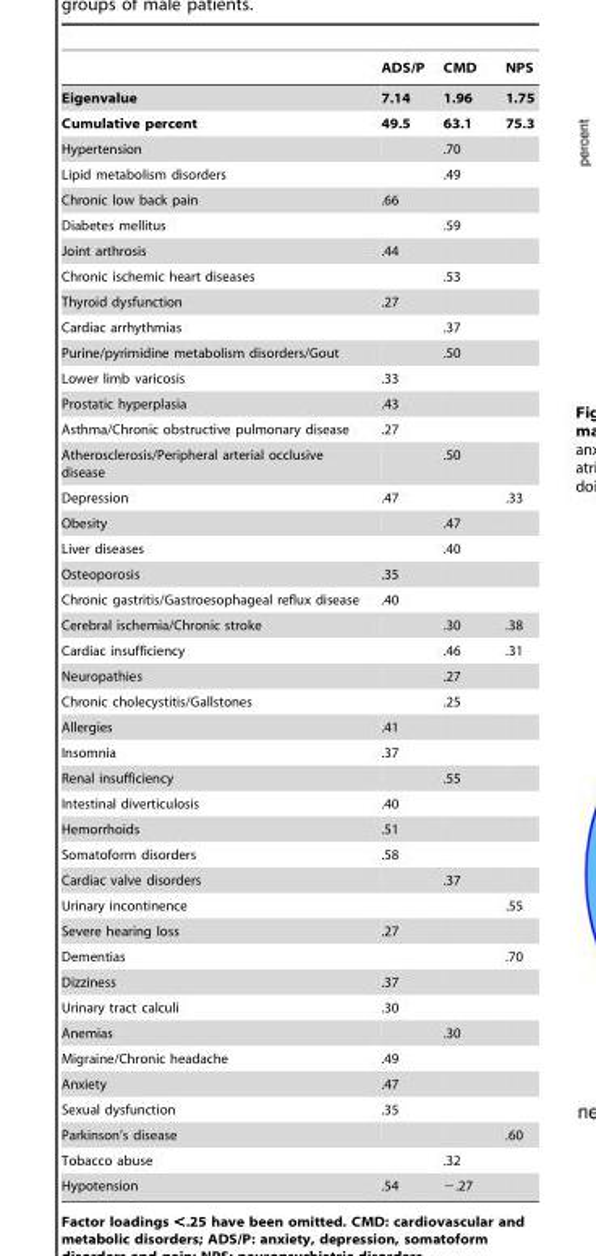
<table><thead><tr><td></td><td>ADS/P</td><td>CMD</td><td>NPS</td></tr></thead><tbody><tr><td>Eigenvalue</td><td>7.14</td><td>1.96</td><td>1.75</td></tr><tr><td>Cumulative percent</td><td>49.5</td><td>63.1</td><td>75.3</td></tr><tr><td>Hypertension</td><td></td><td>.70</td><td></td></tr><tr><td>Lipid metabolism disorders</td><td></td><td>.49</td><td></td></tr><tr><td>Chronic low back pain</td><td>.66</td><td></td><td></td></tr><tr><td>Diabetes mellitus</td><td></td><td>.59</td><td></td></tr><tr><td>Joint arthrosis</td><td>.44</td><td></td><td></td></tr><tr><td>Chronic ischemic heart diseases</td><td></td><td>.53</td><td></td></tr><tr><td>Thyroid dysfunction</td><td>.27</td><td></td><td></td></tr><tr><td>Cardiac arrhythmias</td><td></td><td>.37</td><td></td></tr><tr><td>Purine/pyrimidine metabolism disorders/Gout</td><td></td><td>.50</td><td></td></tr><tr><td>Lower limb varicosis</td><td>.33</td><td></td><td></td></tr><tr><td>Prostatic hyperplasia</td><td>.43</td><td></td><td></td></tr><tr><td>Asthma/Chronic obstructive pulmonary disease</td><td>.27</td><td></td><td></td></tr><tr><td>Atherosclerosis/Peripheral arterial occlusive disease</td><td></td><td>.50</td><td></td></tr><tr><td>Depression</td><td>.47</td><td></td><td>.33</td></tr><tr><td>Obesity</td><td></td><td>.47</td><td></td></tr><tr><td>Liver diseases</td><td></td><td>.40</td><td></td></tr><tr><td>Osteoporosis</td><td>.35</td><td></td><td></td></tr><tr><td>Chronic gastritis/Gastroesophageal reflux disease</td><td>.40</td><td></td><td></td></tr><tr><td>Cerebral ischemia/Chronic stroke</td><td></td><td>.30</td><td>.38</td></tr><tr><td>Cardiac insufficiency</td><td></td><td>.46</td><td>.31</td></tr><tr><td>Neuropathies</td><td></td><td>.27</td><td></td></tr><tr><td>Chronic cholecystitis/Gallstones</td><td></td><td>.25</td><td></td></tr><tr><td>Allergies</td><td>.41</td><td></td><td></td></tr><tr><td>Insomnia</td><td>.37</td><td></td><td></td></tr><tr><td>Renal insufficiency</td><td></td><td>.55</td><td></td></tr><tr><td>Intestinal diverticulosis</td><td>.40</td><td></td><td></td></tr><tr><td>Hemorrhoids</td><td>.51</td><td></td><td></td></tr><tr><td>Somatoform disorders</td><td>.58</td><td></td><td></td></tr><tr><td>Cardiac valve disorders</td><td></td><td>.37</td><td></td></tr><tr><td>Urinary incontinence</td><td></td><td></td><td>.55</td></tr><tr><td>Severe hearing loss</td><td>.27</td><td></td><td></td></tr><tr><td>Dementias</td><td></td><td></td><td>.70</td></tr><tr><td>Dizziness</td><td>.37</td><td></td><td></td></tr><tr><td>Urinary tract calculi</td><td>.30</td><td></td><td></td></tr><tr><td>Anemias</td><td></td><td>.30</td><td></td></tr><tr><td>Migraine/Chronic headache</td><td>.49</td><td></td><td></td></tr><tr><td>Anxiety</td><td>.47</td><td></td><td></td></tr><tr><td>Sexual dysfunction</td><td>.35</td><td></td><td></td></tr><tr><td>Parkinson’s disease</td><td></td><td></td><td>.60</td></tr><tr><td>Tobacco abuse</td><td></td><td>.32</td><td></td></tr><tr><td>Hypotension</td><td>.54</td><td>−.27</td><td></td></tr></tbody></table>